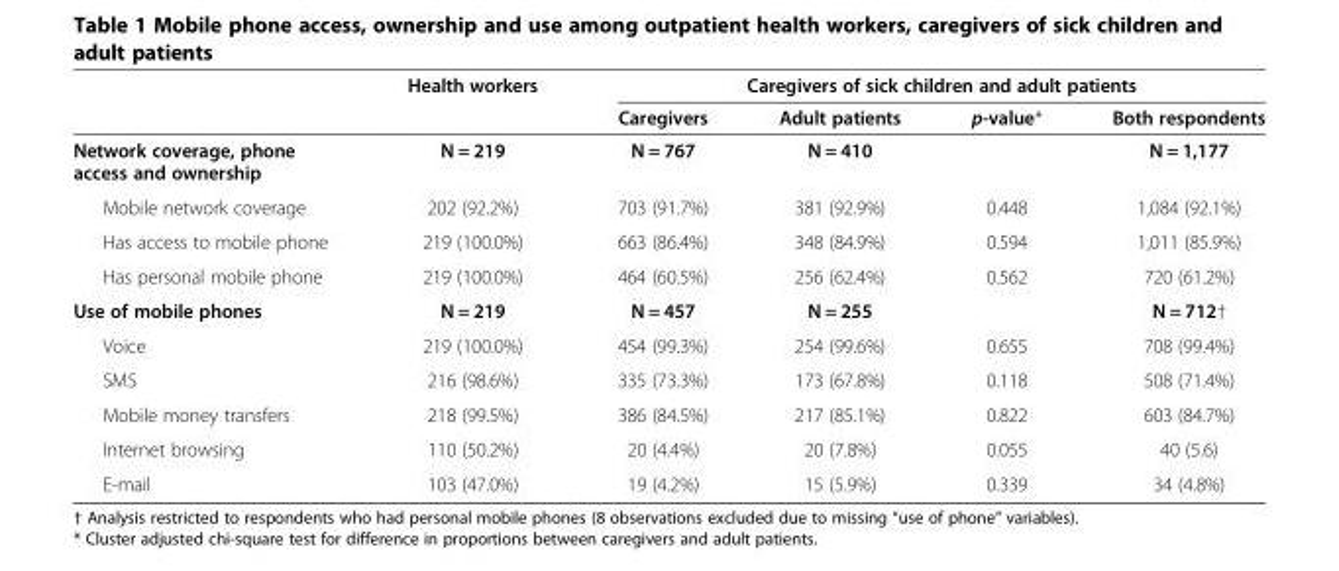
<table><thead><tr><td rowspan="2"></td><td rowspan="2">Health workers</td><td colspan="4">Caregivers of sick children and adult patients</td></tr><tr><td>Caregivers</td><td>Adult patients</td><td>p-value*</td><td>Both respondents</td></tr></thead><tbody><tr><td>Network coverage, phone access and ownership</td><td>N = 219</td><td>N = 767</td><td>N = 410</td><td></td><td>N = 1,177</td></tr><tr><td>Mobile network coverage</td><td>202 (92.2%)</td><td>703 (91.7%)</td><td>381 (92.9%)</td><td>0.448</td><td>1,084 (92.1%)</td></tr><tr><td>Has access to mobile phone</td><td>219 (100.0%)</td><td>663 (86.4%)</td><td>348 (84.9%)</td><td>0.594</td><td>1,011 (85.9%)</td></tr><tr><td>Has personal mobile phone</td><td>219 (100.0%)</td><td>464 (60.5%)</td><td>256 (62.4%)</td><td>0.562</td><td>720 (61.2%)</td></tr><tr><td>Use of mobile phones</td><td>N = 219</td><td>N = 457</td><td>N = 255</td><td></td><td>N = 712†</td></tr><tr><td>Voice</td><td>219 (100.0%)</td><td>454 (99.3%)</td><td>254 (99.6%)</td><td>0.655</td><td>708 (99.4%)</td></tr><tr><td>SMS</td><td>216 (98.6%)</td><td>335 (73.3%)</td><td>173 (67.8%)</td><td>0.118</td><td>508 (71.4%)</td></tr><tr><td>Mobile money transfers</td><td>218 (99.5%)</td><td>386 (84.5%)</td><td>217 (85.1%)</td><td>0.822</td><td>603 (84.7%)</td></tr><tr><td>Internet browsing</td><td>110 (50.2%)</td><td>20 (4.4%)</td><td>20 (7.8%)</td><td>0.055</td><td>40 (5.6)</td></tr><tr><td>E-mail</td><td>103 (47.0%)</td><td>19 (4.2%)</td><td>15 (5.9%)</td><td>0.339</td><td>34 (4.8%)</td></tr></tbody></table>